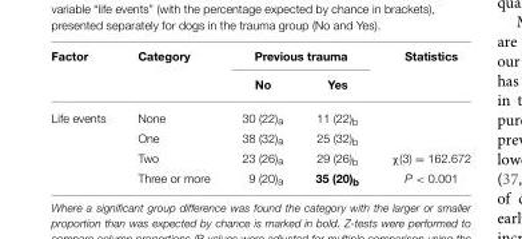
<table><thead><tr><td rowspan="2">Factor</td><td rowspan="2">Category</td><td colspan="2">Previous trauma</td><td rowspan="2">Statistics</td></tr><tr><td>No</td><td>Yes</td></tr></thead><tbody><tr><td rowspan="4">Life events</td><td>None</td><td>30 (22)<sub>a</sub></td><td>11 (22)<sub>b</sub></td><td></td></tr><tr><td>One</td><td>38 (32)<sub>a</sub></td><td>25 (32)<sub>b</sub></td><td></td></tr><tr><td>Two</td><td>23 (26)<sub>a</sub></td><td>29 (26)<sub>b</sub></td><td>χ(3) = 162.672</td></tr><tr><td>Three or more</td><td>9 (20)<sub>a</sub></td><td>35 (20)<sub>b</sub></td><td>P &lt; 0.001</td></tr></tbody></table>